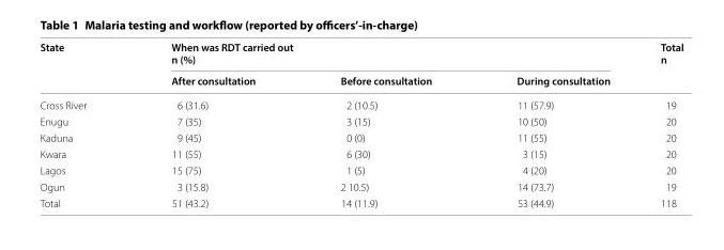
<table><thead><tr><td rowspan="2">State</td><td colspan="3">When was RDT carried out n (%)</td><td rowspan="2">Total n</td></tr><tr><td>After consultation</td><td>Before consultation</td><td>During consultation</td></tr></thead><tbody><tr><td>Cross River</td><td>6 (31.6)</td><td>2 (10.5)</td><td>11 (57.9)</td><td>19</td></tr><tr><td>Enugu</td><td>7 (35)</td><td>3 (15)</td><td>10 (50)</td><td>20</td></tr><tr><td>Kaduna</td><td>9 (45)</td><td>0 (0)</td><td>11 (55)</td><td>20</td></tr><tr><td>Kwara</td><td>11 (55)</td><td>6 (30)</td><td>3 (15)</td><td>20</td></tr><tr><td>Lagos</td><td>15 (75)</td><td>1 (5)</td><td>4 (20)</td><td>20</td></tr><tr><td>Ogun</td><td>3 (15.8)</td><td>2 10.5)</td><td>14 (73.7)</td><td>19</td></tr><tr><td>Total</td><td>51 (43.2)</td><td>14 (11.9)</td><td>53 (44.9)</td><td>118</td></tr></tbody></table>